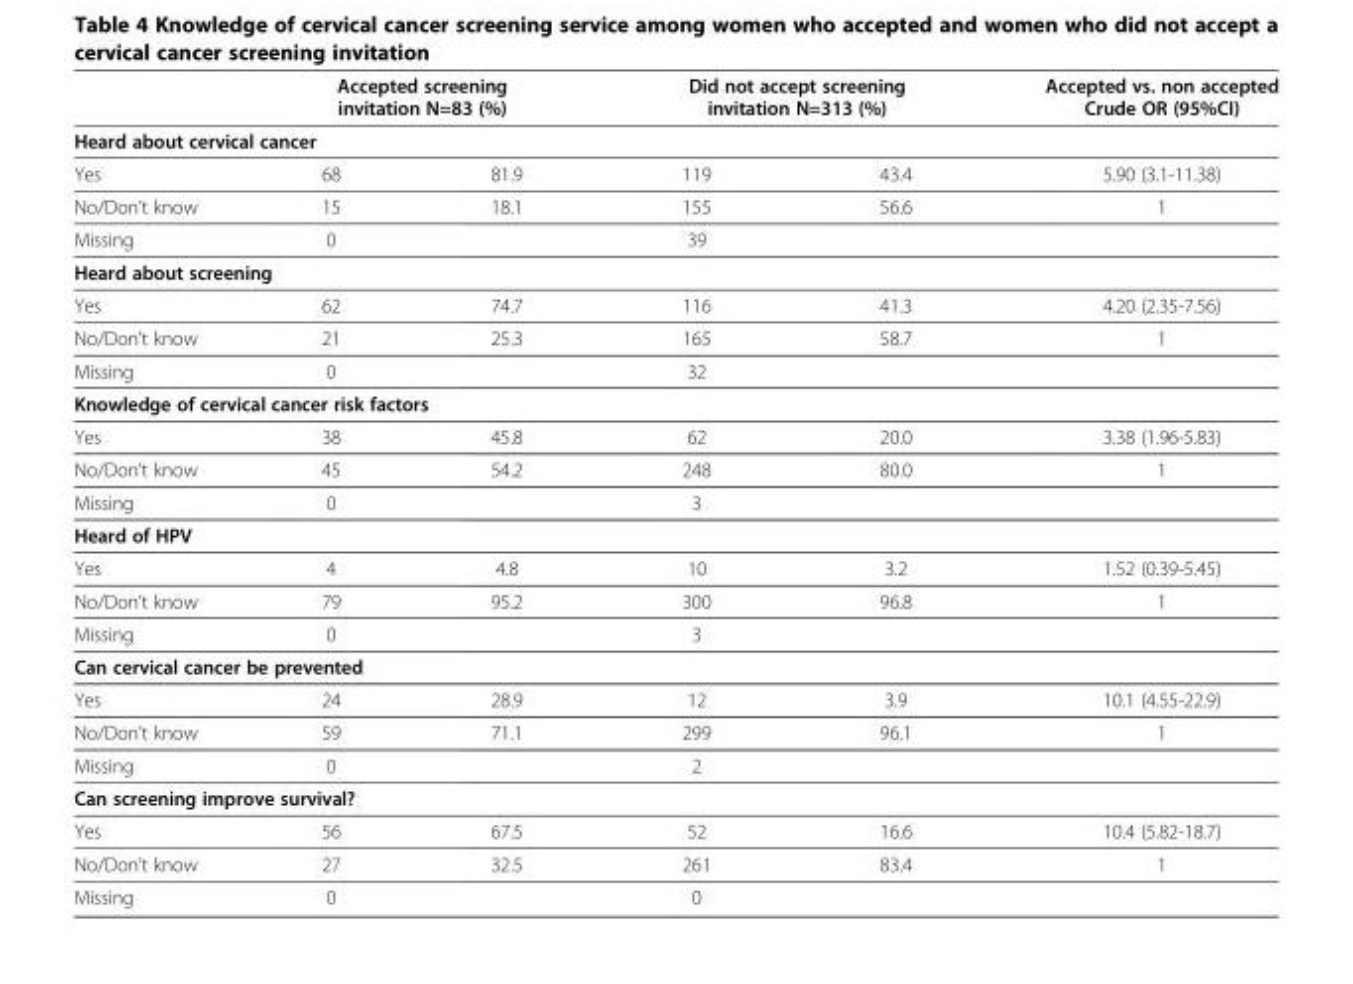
<table><thead><tr><td></td><td colspan="2">Accepted screening invitation N=83 (%)</td><td colspan="2">Did not accept screening invitation N=313 (%)</td><td>Accepted vs. non accepted Crude OR (95%CI)</td></tr><tr><td colspan="6">Heard about cervical cancer</td></tr><tr><td>Yes</td><td>68</td><td>81.9</td><td>119</td><td>43.4</td><td>5.90 (3.1-11.38)</td></tr></thead><tbody><tr><td>No/Don’t know</td><td>15</td><td>18.1</td><td>155</td><td>56.6</td><td>1</td></tr><tr><td>Missing</td><td>0</td><td></td><td>39</td><td></td><td></td></tr><tr><td colspan="6">Heard about screening</td></tr><tr><td>Yes</td><td>62</td><td>74.7</td><td>116</td><td>41.3</td><td>4.20 (2.35-7.56)</td></tr><tr><td>No/Don’t know</td><td>21</td><td>25.3</td><td>165</td><td>58.7</td><td>1</td></tr><tr><td>Missing</td><td>0</td><td></td><td>32</td><td></td><td></td></tr><tr><td colspan="6">Knowledge of cervical cancer risk factors</td></tr><tr><td>Yes</td><td>38</td><td>45.8</td><td>62</td><td>20.0</td><td>3.38 (1.96-5.83)</td></tr><tr><td>No/Don’t know</td><td>45</td><td>54.2</td><td>248</td><td>80.0</td><td>1</td></tr><tr><td>Missing</td><td>0</td><td></td><td>3</td><td></td><td></td></tr><tr><td colspan="6">Heard of HPV</td></tr><tr><td>Yes</td><td>4</td><td>4.8</td><td>10</td><td>3.2</td><td>1.52 (0.39-5.45)</td></tr><tr><td>No/Don’t know</td><td>79</td><td>95.2</td><td>300</td><td>96.8</td><td>1</td></tr><tr><td>Missing</td><td>0</td><td></td><td>3</td><td></td><td></td></tr><tr><td colspan="6">Can cervical cancer be prevented</td></tr><tr><td>Yes</td><td>24</td><td>28.9</td><td>12</td><td>3.9</td><td>10.1 (4.55-22.9)</td></tr><tr><td>No/Don’t know</td><td>59</td><td>71.1</td><td>299</td><td>96.1</td><td>1</td></tr><tr><td>Missing</td><td>0</td><td></td><td>2</td><td></td><td></td></tr><tr><td colspan="6">Can screening improve survival?</td></tr><tr><td>Yes</td><td>56</td><td>67.5</td><td>52</td><td>16.6</td><td>10.4 (5.82-18.7)</td></tr><tr><td>No/Don’t know</td><td>27</td><td>32.5</td><td>261</td><td>83.4</td><td>1</td></tr><tr><td>Missing</td><td>0</td><td></td><td>0</td><td></td><td></td></tr></tbody></table>